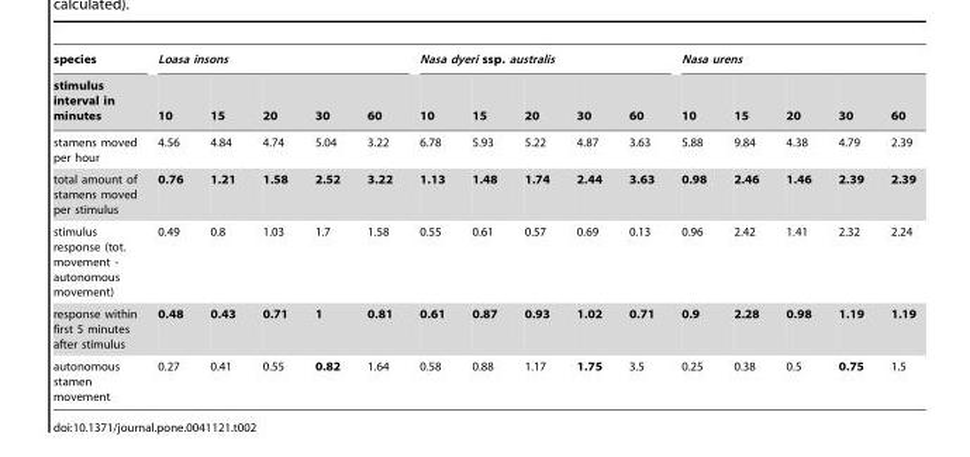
<table><thead><tr><td rowspan="2">species stimulus interval in minutes</td><td colspan="5">Loasa insons</td><td colspan="5">Nasa dyeri ssp. australis</td><td colspan="5">Nasa urens</td></tr><tr><td>10</td><td>15</td><td>20</td><td>30</td><td>60</td><td>10</td><td>15</td><td>20</td><td>30</td><td>60</td><td>10</td><td>15</td><td>20</td><td>30</td><td>60</td></tr></thead><tbody><tr><td>stamens moved per hour</td><td>4.56</td><td>4.84</td><td>4.74</td><td>5.04</td><td>3.22</td><td>6.78</td><td>5.93</td><td>5.22</td><td>4.87</td><td>3.63</td><td>5.88</td><td>9.84</td><td>4.38</td><td>4.79</td><td>2.39</td></tr><tr><td>total amount of stamens moved per stimulus</td><td>0.76</td><td>1.21</td><td>1.58</td><td>2.52</td><td>3.22</td><td>1.13</td><td>1.48</td><td>1.74</td><td>2.44</td><td>3.63</td><td>0.98</td><td>2.46</td><td>1.46</td><td>2.39</td><td>2.39</td></tr><tr><td>stimulus response (tot. movement - autonomous movement)</td><td>0.49</td><td>0.8</td><td>1.03</td><td>1.7</td><td>1.58</td><td>0.55</td><td>0.61</td><td>0.57</td><td>0.69</td><td>0.13</td><td>0.96</td><td>2.42</td><td>1.41</td><td>2.32</td><td>2.24</td></tr><tr><td>response within first 5 minutes after stimulus</td><td>0.48</td><td>0.43</td><td>0.71</td><td>1</td><td>0.81</td><td>0.61</td><td>0.87</td><td>0.93</td><td>1.02</td><td>0.71</td><td>0.9</td><td>2.28</td><td>0.98</td><td>1.19</td><td>1.19</td></tr><tr><td>autonomous stamen movement</td><td>0.27</td><td>0.41</td><td>0.55</td><td>0.82</td><td>1.64</td><td>0.58</td><td>0.88</td><td>1.17</td><td>1.75</td><td>3.5</td><td>0.25</td><td>0.38</td><td>0.5</td><td>0.75</td><td>1.5</td></tr></tbody></table>